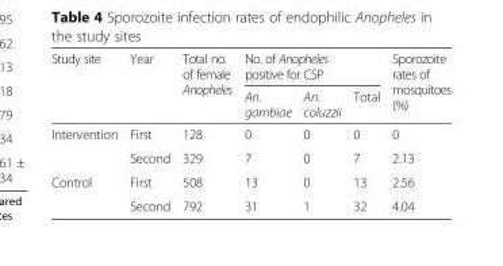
<table><thead><tr><td rowspan="2">Study site</td><td rowspan="2">Year</td><td rowspan="2">Total no. of female Anopheles</td><td colspan="3">No. of Anopheles positive for CSP</td><td rowspan="2">Sporozoite rates of mosquitoes (%)</td></tr><tr><td>An. gambiae</td><td>An. coluzzii</td><td>Total</td></tr></thead><tbody><tr><td rowspan="2">Intervention</td><td>First</td><td>128</td><td>0</td><td>0</td><td>0</td><td>0</td></tr><tr><td>Second</td><td>329</td><td>7</td><td>0</td><td>7</td><td>2.13</td></tr><tr><td rowspan="2">Control</td><td>First</td><td>508</td><td>13</td><td>0</td><td>13</td><td>2.56</td></tr><tr><td>Second</td><td>792</td><td>31</td><td>1</td><td>32</td><td>4.04</td></tr></tbody></table>